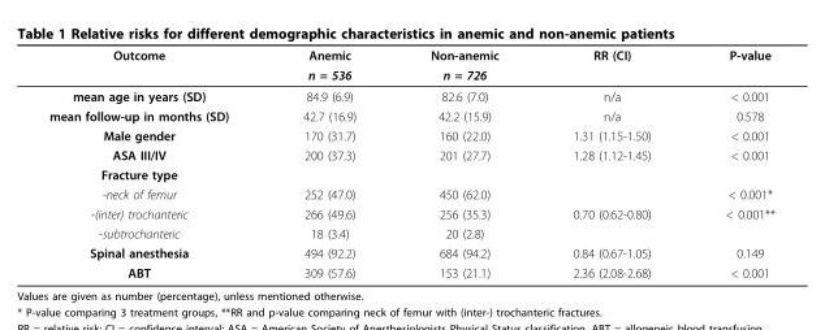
<table><thead><tr><td rowspan="2">Outcome</td><td rowspan="2">Anemic n = 536</td><td rowspan="2">Non-anemic n = 726</td><td rowspan="2">RR (CI)</td><td rowspan="2">P-value</td></tr><tr></tr></thead><tbody><tr><td>mean age in years (SD)</td><td>84.9 (6.9)</td><td>82.6 (7.0)</td><td>n/a</td><td>&lt; 0.001</td></tr><tr><td>mean follow-up in months (SD)</td><td>42.7 (16.9)</td><td>42.2 (15.9)</td><td>n/a</td><td>0.578</td></tr><tr><td>Male gender</td><td>170 (31.7)</td><td>160 (22.0)</td><td>1.31 (1.15-1.50)</td><td>&lt; 0.001</td></tr><tr><td>ASA III/IV</td><td>200 (37.3)</td><td>201 (27.7)</td><td>1.28 (1.12-1.45)</td><td>&lt; 0.001</td></tr><tr><td colspan="5">Fracture type</td></tr><tr><td>-neck of femur</td><td>252 (47.0)</td><td>450 (62.0)</td><td></td><td>&lt; 0.001*</td></tr><tr><td>-(inter) trochanteric</td><td>266 (49.6)</td><td>256 (35.3)</td><td>0.70 (0.62-0.80)</td><td>&lt; 0.001**</td></tr><tr><td>-subtrochanteric</td><td>18 (3.4)</td><td>20 (2.8)</td><td></td><td></td></tr><tr><td>Spinal anesthesia</td><td>494 (92.2)</td><td>684 (94.2)</td><td>0.84 (0.67-1.05)</td><td>0.149</td></tr><tr><td>ABT</td><td>309 (57.6)</td><td>153 (21.1)</td><td>2.36 (2.08-2.68)</td><td>&lt; 0.001</td></tr></tbody></table>